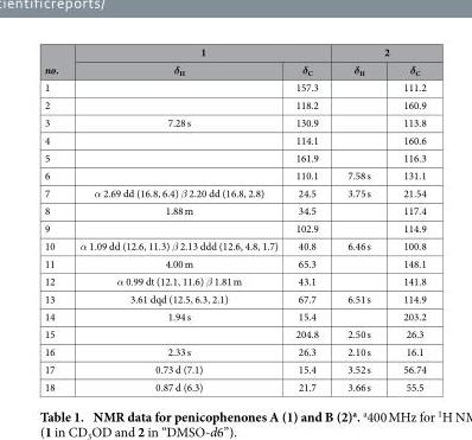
<table><thead><tr><td rowspan="2">no.</td><td colspan="2">1</td><td colspan="2">2</td></tr><tr><td>δ<sub>H</sub></td><td>δ<sub>C</sub></td><td>δ<sub>H</sub></td><td>δ<sub>C</sub></td></tr></thead><tbody><tr><td>1</td><td></td><td>157.3</td><td></td><td>111.2</td></tr><tr><td>2</td><td></td><td>118.2</td><td></td><td>160.9</td></tr><tr><td>3</td><td>7.28 s</td><td>130.9</td><td></td><td>113.8</td></tr><tr><td>4</td><td></td><td>114.1</td><td></td><td>160.6</td></tr><tr><td>5</td><td></td><td>161.9</td><td></td><td>116.3</td></tr><tr><td>6</td><td></td><td>110.1</td><td>7.58 s</td><td>131.1</td></tr><tr><td>7</td><td>α 2.69 dd (16.8, 6.4) β 2.20 dd (16.8, 2.8)</td><td>24.5</td><td>3.75 s</td><td>21.54</td></tr><tr><td>8</td><td>1.88 m</td><td>34.5</td><td></td><td>117.4</td></tr><tr><td>9</td><td></td><td>102.9</td><td></td><td>114.9</td></tr><tr><td>10</td><td>α 1.09 dd (12.6, 11.3) β 2.13 ddd (12.6, 4.8, 1.7)</td><td>40.8</td><td>6.46 s</td><td>100.8</td></tr><tr><td>11</td><td>4.00 m</td><td>65.3</td><td></td><td>148.1</td></tr><tr><td>12</td><td>α 0.99 dt (12.1, 11.6) β 1.81 m</td><td>43.1</td><td></td><td>141.8</td></tr><tr><td>13</td><td>3.61 dqd (12.5, 6.3, 2.1)</td><td>67.7</td><td>6.51 s</td><td>114.9</td></tr><tr><td>14</td><td>1.94 s</td><td>15.4</td><td></td><td>203.2</td></tr><tr><td>15</td><td></td><td>204.8</td><td>2.50 s</td><td>26.3</td></tr><tr><td>16</td><td>2.33 s</td><td>26.3</td><td>2.10 s</td><td>16.1</td></tr><tr><td>17</td><td>0.73 d (7.1)</td><td>15.4</td><td>3.52 s</td><td>56.74</td></tr><tr><td>18</td><td>0.87 d (6.3)</td><td>21.7</td><td>3.66 s</td><td>55.5</td></tr></tbody></table>